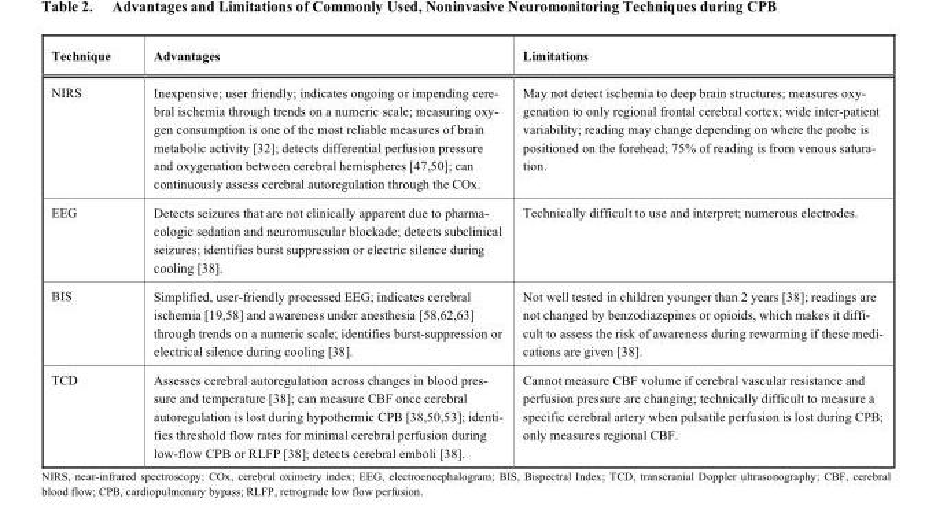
<table><thead><tr><td>Technique</td><td>Advantages</td><td>Limitations</td></tr></thead><tbody><tr><td>NIRS</td><td>Inexpensive; user friendly; indicates ongoing or impending cere- bral ischemia through trends on a numeric scale; measuring oxy- gen consumption is one of the most reliable measures of brain metabolic activity [32]; detects differential perfusion pressure and oxygenation between cerebral hemispheres [47,50]; can continuously assess cerebral autoregulation through the COx.</td><td>May not detect ischemia to deep brain structures; measures oxy- genation to only regional frontal cerebral cortex; wide inter-patient variability; reading may change depending on where the probe is positioned on the forehead; 75% of reading is from venous satura- tion.</td></tr><tr><td>EEG</td><td>Detects seizures that are not clinically apparent due to pharma- cologic sedation and neuromuscular blockade; detects subclinical seizures; identifies burst suppression or electric silence during cooling [38].</td><td>Technically difficult to use and interpret; numerous electrodes.</td></tr><tr><td>BIS</td><td>Simplified, user-friendly processed EEG; indicates cerebral ischemia [19,58] and awareness under anesthesia [58,62,63] through trends on a numeric scale; identifies burst-suppression or electrical silence during cooling [38].</td><td>Not well tested in children younger than 2 years [38]; readings are not changed by benzodiazepines or opioids, which makes it diffi- cult to assess the risk of awareness during rewarming if these medi- cations are given [38].</td></tr><tr><td>TCD</td><td>Assesses cerebral autoregulation across changes in blood pres- sure and temperature [38]; can measure CBF once cerebral autoregulation is lost during hypothermic CPB [38,50,53]; identi- fies threshold flow rates for minimal cerebral perfusion during low-flow CPB or RLFP [38]; detects cerebral emboli [38].</td><td>Cannot measure CBF volume if cerebral vascular resistance and perfusion pressure are changing; technically difficult to measure a specific cerebral artery when pulsatile perfusion is lost during CPB; only measures regional CBF.</td></tr></tbody></table>